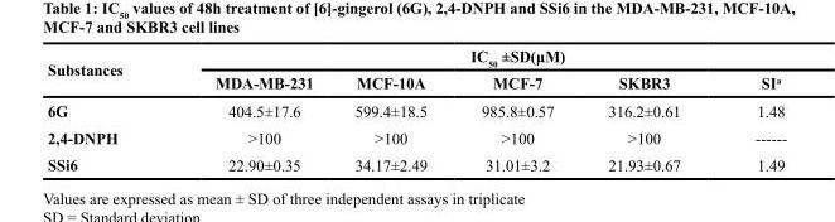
<table><thead><tr><td rowspan="2">Substances</td><td colspan="5">IC<sub>50</sub> ±SD(μM)</td></tr><tr><td>MDA-MB-231</td><td>MCF-10A</td><td>MCF-7</td><td>SKBR3</td><td>SI<sup>a</sup></td></tr></thead><tbody><tr><td>6G</td><td>404.5±17.6</td><td>599.4±18.5</td><td>985.8±0.57</td><td>316.2±0.61</td><td>1.48</td></tr><tr><td>2,4-DNPH</td><td>&gt;100</td><td>&gt;100</td><td>&gt;100</td><td>&gt;100</td><td>------</td></tr><tr><td>SSi6</td><td>22.90±0.35</td><td>34.17±2.49</td><td>31.01±3.2</td><td>21.93±0.67</td><td>1.49</td></tr></tbody></table>